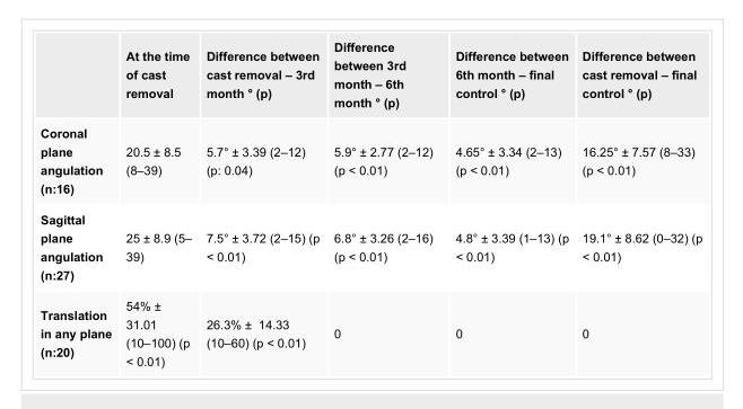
<table><thead><tr><td></td><td>At the time of cast removal</td><td>Difference between cast removal – 3rd month ° (p)</td><td>Difference between 3rd month – 6th month ° (p)</td><td>Difference between 6th month – final control ° (p)</td><td>Difference between cast removal – final control ° (p)</td></tr></thead><tbody><tr><td>Coronal plane angulation (n:16)</td><td>20.5 ± 8.5 (8–39)</td><td>5.7° ± 3.39 (2–12) (p: 0.04)</td><td>5.9° ± 2.77 (2–12) (p &lt; 0.01)</td><td>4.65° ± 3.34 (2–13) (p &lt; 0.01)</td><td>16.25° ± 7.57 (8–33) (p &lt; 0.01)</td></tr><tr><td>Sagittal plane angulation (n:27)</td><td>25 ± 8.9 (5– 39)</td><td>7.5° ± 3.72 (2–15) (p &lt; 0.01)</td><td>6.8° ± 3.26 (2–16) (p &lt; 0.01)</td><td>4.8° ± 3.39 (1–13) (p &lt; 0.01)</td><td>19.1° ± 8.62 (0–32) (p &lt; 0.01)</td></tr><tr><td>Translation in any plane (n:20)</td><td>54% ± 31.01 (10–100) (p &lt; 0.01)</td><td>26.3% ± 14.33 (10–60) (p &lt; 0.01)</td><td>0</td><td>0</td><td>0</td></tr></tbody></table>